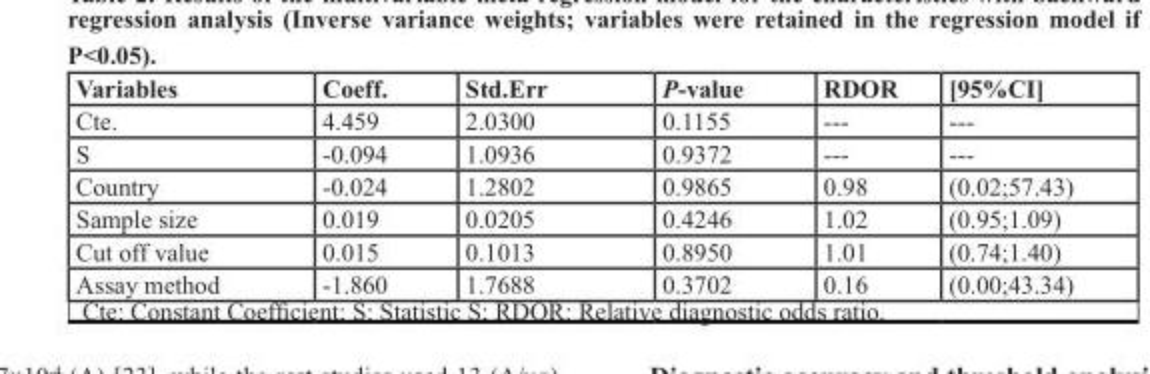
<table><thead><tr><td>Variables</td><td>Coeff.</td><td>Std.Err</td><td>P-value</td><td>RDOR</td><td>[95%CI]</td></tr></thead><tbody><tr><td>Cte.</td><td>4.459</td><td>2.0300</td><td>0.1155</td><td>---</td><td>---</td></tr><tr><td>S</td><td>-0.094</td><td>1.0936</td><td>0.9372</td><td>---</td><td>---</td></tr><tr><td>Country</td><td>-0.024</td><td>1.2802</td><td>0.9865</td><td>0.98</td><td>(0.02;57.43)</td></tr><tr><td>Sample size</td><td>0.019</td><td>0.0205</td><td>0.4246</td><td>1.02</td><td>(0.95;1.09)</td></tr><tr><td>Cut off value</td><td>0.015</td><td>0.1013</td><td>0.8950</td><td>1.01</td><td>(0.74;1.40)</td></tr><tr><td>Assay method</td><td>-1.860</td><td>1.7688</td><td>0.3702</td><td>0.16</td><td>(0.00;43.34)</td></tr></tbody></table>